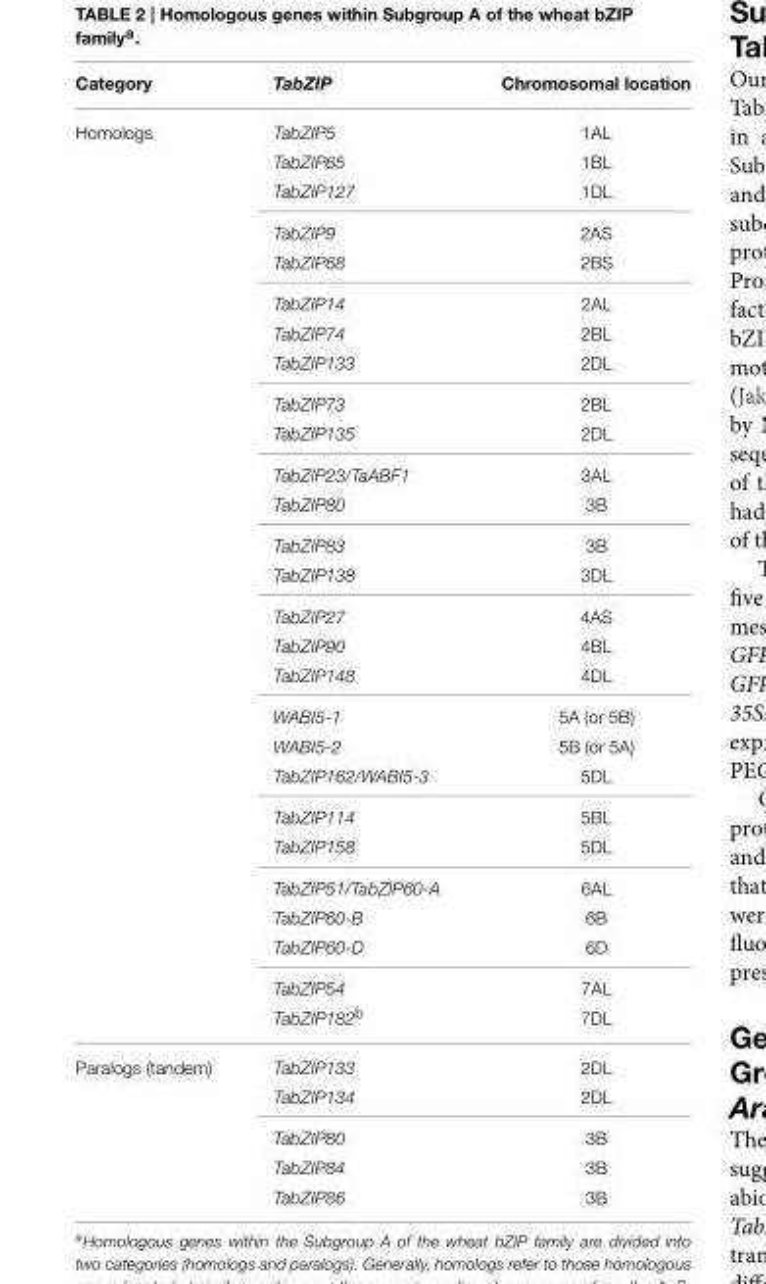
<table><thead><tr><td>Category</td><td>TabZIP</td><td>Chromosomal location</td></tr></thead><tbody><tr><td rowspan="27">Homologs</td><td>TabZIP5</td><td>1AL</td></tr><tr><td>TabZIP65</td><td>1BL</td></tr><tr><td>TabZIP127</td><td>1DL</td></tr><tr><td>TabZIP9</td><td>2AS</td></tr><tr><td>TabZIP68</td><td>2BS</td></tr><tr><td>TabZIP14</td><td>2AL</td></tr><tr><td>TabZIP74</td><td>2BL</td></tr><tr><td>TabZIP133</td><td>2DL</td></tr><tr><td>TabZIP73</td><td>2BL</td></tr><tr><td>TabZIP135</td><td>2DL</td></tr><tr><td>TabZIP23/TaABF1</td><td>3AL</td></tr><tr><td>TabZIP80</td><td>3B</td></tr><tr><td>TabZIP83</td><td>3B</td></tr><tr><td>TabZIP138</td><td>3DL</td></tr><tr><td>TabZIP27</td><td>4AS</td></tr><tr><td>TabZIP90</td><td>4BL</td></tr><tr><td>TabZIP148</td><td>4DL</td></tr><tr><td>WABI5-1</td><td>5A (or 5B)</td></tr><tr><td>WABI5-2</td><td>5B (or 5A)</td></tr><tr><td>TabZIP162/WABI5-3</td><td>5DL</td></tr><tr><td>TabZIP114</td><td>5BL</td></tr><tr><td>TabZIP158</td><td>5DL</td></tr><tr><td>TabZIP51/TabZIP60-A</td><td>6AL</td></tr><tr><td>TabZIP60-B</td><td>6B</td></tr><tr><td>TabZIP60-D</td><td>6D</td></tr><tr><td>TabZIP54</td><td>7AL</td></tr><tr><td>TabZIP182<sup>b</sup></td><td>7DL</td></tr><tr><td rowspan="5">Paralogs (tandem)</td><td>TabZIP133</td><td>2DL</td></tr><tr><td>TabZIP134</td><td>2DL</td></tr><tr><td>TabZIP80</td><td>3B</td></tr><tr><td>TabZIP84</td><td>3B</td></tr><tr><td>TabZIP86</td><td>3B</td></tr></tbody></table>